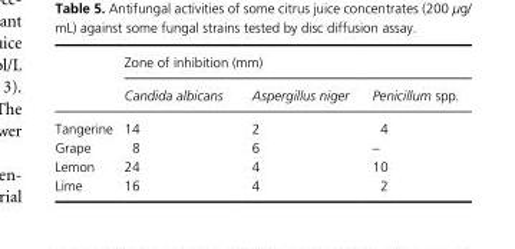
<table><thead><tr><td rowspan="2"></td><td colspan="3">Zone of inhibition (mm)</td></tr><tr><td>Candida albicans</td><td>Aspergillus niger</td><td>Penicillum spp.</td></tr></thead><tbody><tr><td>Tangerine</td><td>14</td><td>2</td><td>4</td></tr><tr><td>Grape</td><td>8</td><td>6</td><td>–</td></tr><tr><td>Lemon</td><td>24</td><td>4</td><td>10</td></tr><tr><td>Lime</td><td>16</td><td>4</td><td>2</td></tr></tbody></table>